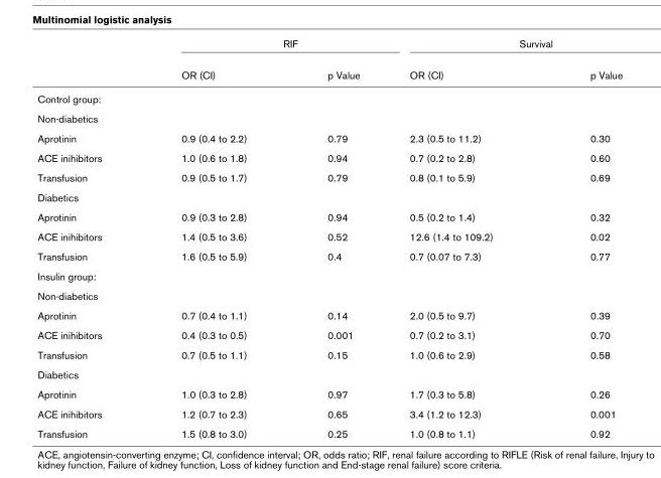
<table><thead><tr><td rowspan="2"></td><td colspan="2">RIF</td><td colspan="2">Survival</td></tr><tr><td>OR (CI)</td><td>p Value</td><td>OR (CI)</td><td>p Value</td></tr></thead><tbody><tr><td colspan="5">Control group:</td></tr><tr><td colspan="5">Non-diabetics</td></tr><tr><td>Aprotinin</td><td>0.9 (0.4 to 2.2)</td><td>0.79</td><td>2.3 (0.5 to 11.2)</td><td>0.30</td></tr><tr><td>ACE inihibitors</td><td>1.0 (0.6 to 1.8)</td><td>0.94</td><td>0.7 (0.2 to 2.8)</td><td>0.60</td></tr><tr><td>Transfusion</td><td>0.9 (0.5 to 1.7)</td><td>0.79</td><td>0.8 (0.1 to 5.9)</td><td>0.69</td></tr><tr><td colspan="5">Diabetics</td></tr><tr><td>Aprotinin</td><td>0.9 (0.3 to 2.8)</td><td>0.94</td><td>0.5 (0.2 to 1.4)</td><td>0.32</td></tr><tr><td>ACE inihibitors</td><td>1.4 (0.5 to 3.6)</td><td>0.52</td><td>12.6 (1.4 to 109.2)</td><td>0.02</td></tr><tr><td>Transfusion</td><td>1.6 (0.5 to 5.9)</td><td>0.4</td><td>0.7 (0.07 to 7.3)</td><td>0.77</td></tr><tr><td colspan="5">Insulin group:</td></tr><tr><td colspan="5">Non-diabetics</td></tr><tr><td>Aprotinin</td><td>0.7 (0.4 to 1.1)</td><td>0.14</td><td>2.0 (0.5 to 9.7)</td><td>0.39</td></tr><tr><td>ACE inihibitors</td><td>0.4 (0.3 to 0.5)</td><td>0.001</td><td>0.7 (0.2 to 3.1)</td><td>0.70</td></tr><tr><td>Transfusion</td><td>0.7 (0.5 to 1.1)</td><td>0.15</td><td>1.0 (0.6 to 2.9)</td><td>0.58</td></tr><tr><td colspan="5">Diabetics</td></tr><tr><td>Aprotinin</td><td>1.0 (0.3 to 2.8)</td><td>0.97</td><td>1.7 (0.3 to 5.8)</td><td>0.26</td></tr><tr><td>ACE inihibitors</td><td>1.2 (0.7 to 2.3)</td><td>0.65</td><td>3.4 (1.2 to 12.3)</td><td>0.001</td></tr><tr><td>Transfusion</td><td>1.5 (0.8 to 3.0)</td><td>0.25</td><td>1.0 (0.8 to 1.1)</td><td>0.92</td></tr></tbody></table>